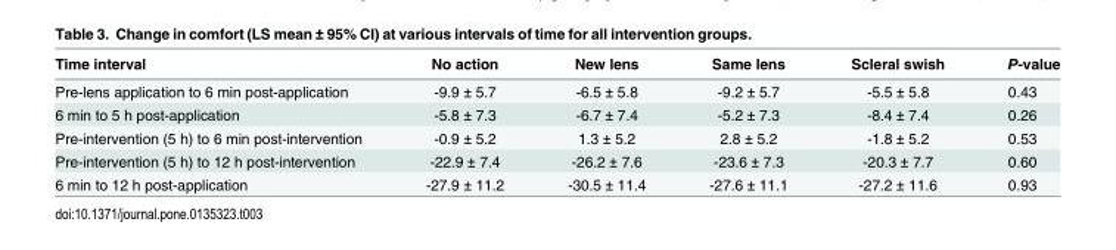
<table><thead><tr><td>Time interval</td><td>No action</td><td>New lens</td><td>Same lens</td><td>Scleral swish</td><td>P-value</td></tr></thead><tbody><tr><td>Pre-lens application to 6 min post-application</td><td>-9.9 ± 5.7</td><td>-6.5 ± 5.8</td><td>-9.2 ± 5.7</td><td>-5.5 ± 5.8</td><td>0.43</td></tr><tr><td>6 min to 5 h post-application</td><td>-5.8 ± 7.3</td><td>-6.7 ± 7.4</td><td>-5.2 ± 7.3</td><td>-8.4 ± 7.4</td><td>0.26</td></tr><tr><td>Pre-intervention (5 h) to 6 min post-intervention</td><td>-0.9 ± 5.2</td><td>1.3 ± 5.2</td><td>2.8 ± 5.2</td><td>-1.8 ± 5.2</td><td>0.53</td></tr><tr><td>Pre-intervention (5 h) to 12 h post-intervention</td><td>-22.9 ± 7.4</td><td>-26.2 ± 7.6</td><td>-23.6 ± 7.3</td><td>-20.3 ± 7.7</td><td>0.60</td></tr><tr><td>6 min to 12 h post-application</td><td>-27.9 ± 11.2</td><td>-30.5 ± 11.4</td><td>-27.6 ± 11.1</td><td>-27.2 ± 11.6</td><td>0.93</td></tr></tbody></table>